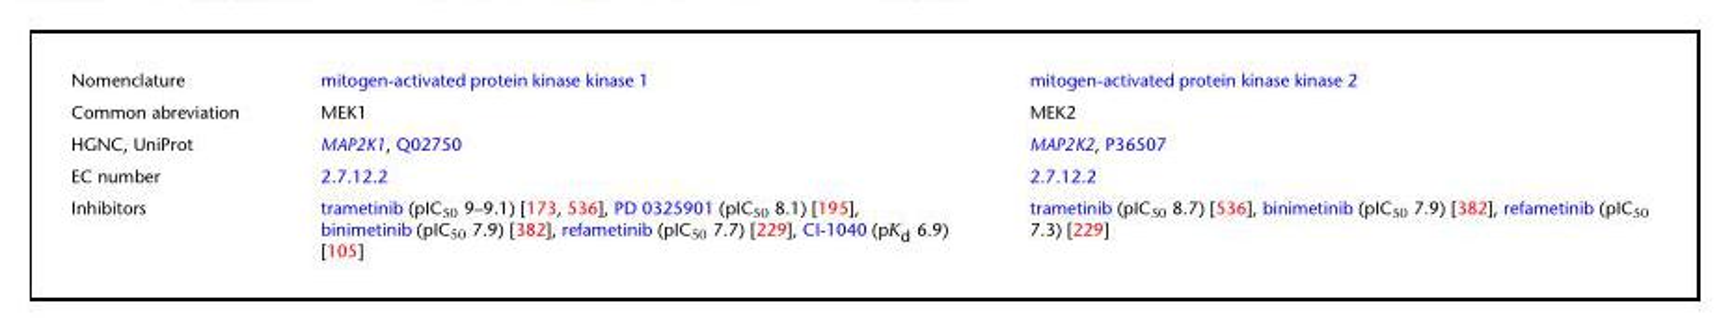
<table><tbody><tr><td>Nomenclature</td><td>mitogen-activated protein kinase kinase 1</td><td>mitogen-activated protein kinase kinase 2</td></tr><tr><td>Common abreviation</td><td>MEK1</td><td>MEK2</td></tr><tr><td>HGNC, UniProt</td><td>MAP2K1, Q02750</td><td>MAP2K2, P36507</td></tr><tr><td>EC number</td><td>2.7.12.2</td><td>2.7.12.2</td></tr><tr><td>Inhibitors</td><td>trametinib (pIC<sub>50</sub> 9–9.1) [173, 536], PD 0325901 (pIC<sub>50</sub> 8.1) [195], binimetinib (pIC<sub>50</sub> 7.9) [382], refametinib (pIC<sub>50</sub> 7.7) [229], CI-1040 (pK<sub>d</sub> 6.9) [105]</td><td>trametinib (pIC<sub>50</sub> 8.7) [536], binimetinib (pIC<sub>50</sub> 7.9) [382], refametinib (pIC<sub>50</sub> 7.3) [229]</td></tr></tbody></table>